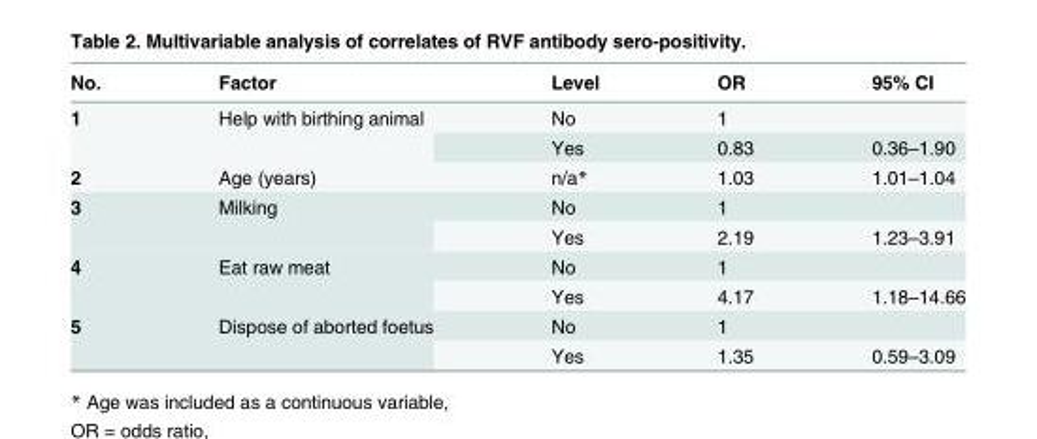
<table><thead><tr><td>No.</td><td>Factor</td><td>Level</td><td>OR</td><td>95% CI</td></tr></thead><tbody><tr><td rowspan="2">1</td><td rowspan="2">Help with birthing animal</td><td>No</td><td>1</td><td></td></tr><tr><td>Yes</td><td>0.83</td><td>0.36–1.90</td></tr><tr><td>2</td><td>Age (years)</td><td>n/a*</td><td>1.03</td><td>1.01–1.04</td></tr><tr><td rowspan="2">3</td><td rowspan="2">Milking</td><td>No</td><td>1</td><td></td></tr><tr><td>Yes</td><td>2.19</td><td>1.23–3.91</td></tr><tr><td rowspan="2">4</td><td rowspan="2">Eat raw meat</td><td>No</td><td>1</td><td></td></tr><tr><td>Yes</td><td>4.17</td><td>1.18–14.66</td></tr><tr><td rowspan="2">5</td><td rowspan="2">Dispose of aborted foetus</td><td>No</td><td>1</td><td></td></tr><tr><td>Yes</td><td>1.35</td><td>0.59–3.09</td></tr></tbody></table>